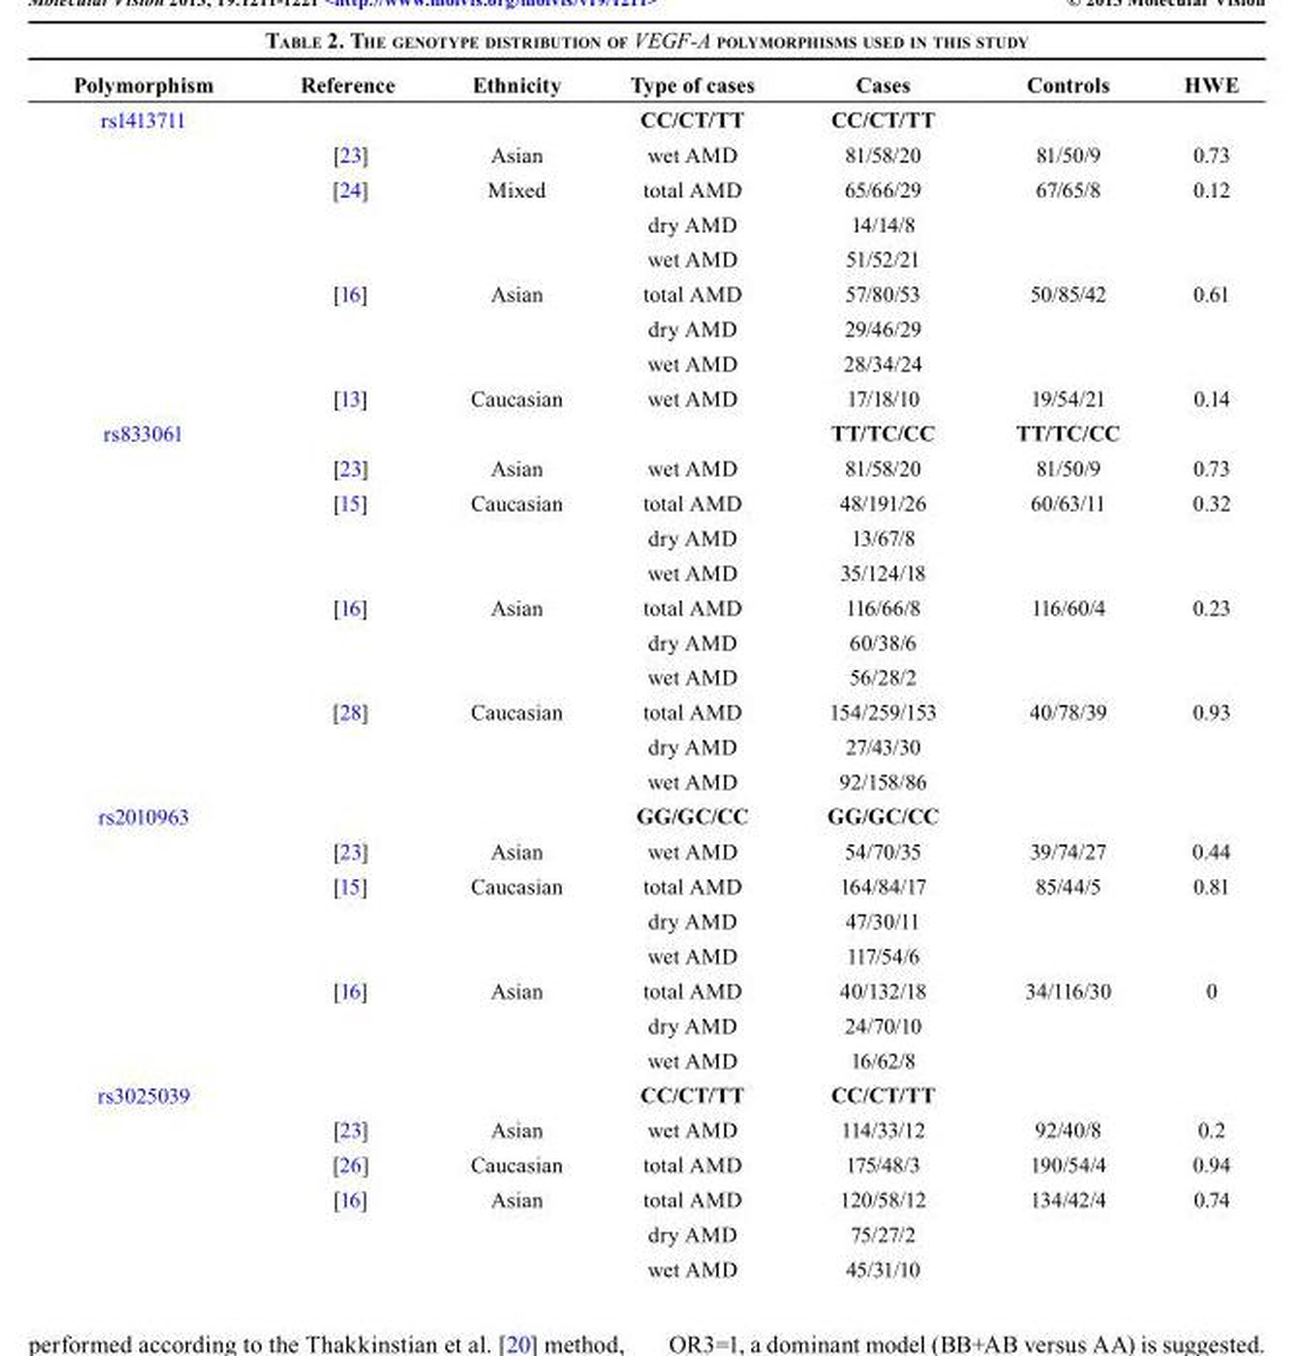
<table><thead><tr><td>Polymorphism</td><td>Reference</td><td>Ethnicity</td><td>Type of cases</td><td>Cases</td><td>Controls</td><td>HWE</td></tr></thead><tbody><tr><td rowspan="9">rs1413711</td><td></td><td></td><td>CC/CT/TT</td><td>CC/CT/TT</td><td></td><td></td></tr><tr><td>[23]</td><td>Asian</td><td>wet AMD</td><td>81/58/20</td><td>81/50/9</td><td>0.73</td></tr><tr><td>[24]</td><td>Mixed</td><td>total AMD</td><td>65/66/29</td><td>67/65/8</td><td>0.12</td></tr><tr><td></td><td></td><td>dry AMD</td><td>14/14/8</td><td></td><td></td></tr><tr><td></td><td></td><td>wet AMD</td><td>51/52/21</td><td></td><td></td></tr><tr><td>[16]</td><td>Asian</td><td>total AMD</td><td>57/80/53</td><td>50/85/42</td><td>0.61</td></tr><tr><td></td><td></td><td>dry AMD</td><td>29/46/29</td><td></td><td></td></tr><tr><td></td><td></td><td>wet AMD</td><td>28/34/24</td><td></td><td></td></tr><tr><td>[13]</td><td>Caucasian</td><td>wet AMD</td><td>17/18/10</td><td>19/54/21</td><td>0.14</td></tr><tr><td rowspan="11">rs833061</td><td></td><td></td><td></td><td>TT/TC/CC</td><td>TT/TC/CC</td><td></td></tr><tr><td>[23]</td><td>Asian</td><td>wet AMD</td><td>81/58/20</td><td>81/50/9</td><td>0.73</td></tr><tr><td>[15]</td><td>Caucasian</td><td>total AMD</td><td>48/191/26</td><td>60/63/11</td><td>0.32</td></tr><tr><td></td><td></td><td>dry AMD</td><td>13/67/8</td><td></td><td></td></tr><tr><td></td><td></td><td>wet AMD</td><td>35/124/18</td><td></td><td></td></tr><tr><td>[16]</td><td>Asian</td><td>total AMD</td><td>116/66/8</td><td>116/60/4</td><td>0.23</td></tr><tr><td></td><td></td><td>dry AMD</td><td>60/38/6</td><td></td><td></td></tr><tr><td></td><td></td><td>wet AMD</td><td>56/28/2</td><td></td><td></td></tr><tr><td>[28]</td><td>Caucasian</td><td>total AMD</td><td>154/259/153</td><td>40/78/39</td><td>0.93</td></tr><tr><td></td><td></td><td>dry AMD</td><td>27/43/30</td><td></td><td></td></tr><tr><td></td><td></td><td>wet AMD</td><td>92/158/86</td><td></td><td></td></tr><tr><td rowspan="8">rs2010963</td><td></td><td></td><td>GG/GC/CC</td><td>GG/GC/CC</td><td></td><td></td></tr><tr><td>[23]</td><td>Asian</td><td>wet AMD</td><td>54/70/35</td><td>39/74/27</td><td>0.44</td></tr><tr><td>[15]</td><td>Caucasian</td><td>total AMD</td><td>164/84/17</td><td>85/44/5</td><td>0.81</td></tr><tr><td></td><td></td><td>dry AMD</td><td>47/30/11</td><td></td><td></td></tr><tr><td></td><td></td><td>wet AMD</td><td>117/54/6</td><td></td><td></td></tr><tr><td>[16]</td><td>Asian</td><td>total AMD</td><td>40/132/18</td><td>34/116/30</td><td>0</td></tr><tr><td></td><td></td><td>dry AMD</td><td>24/70/10</td><td></td><td></td></tr><tr><td></td><td></td><td>wet AMD</td><td>16/62/8</td><td></td><td></td></tr><tr><td rowspan="6">rs3025039</td><td></td><td></td><td>CC/CT/TT</td><td>CC/CT/TT</td><td></td><td></td></tr><tr><td>[23]</td><td>Asian</td><td>wet AMD</td><td>114/33/12</td><td>92/40/8</td><td>0.2</td></tr><tr><td>[26]</td><td>Caucasian</td><td>total AMD</td><td>175/48/3</td><td>190/54/4</td><td>0.94</td></tr><tr><td>[16]</td><td>Asian</td><td>total AMD</td><td>120/58/12</td><td>134/42/4</td><td>0.74</td></tr><tr><td></td><td></td><td>dry AMD</td><td>75/27/2</td><td></td><td></td></tr><tr><td></td><td></td><td>wet AMD</td><td>45/31/10</td><td></td><td></td></tr></tbody></table>